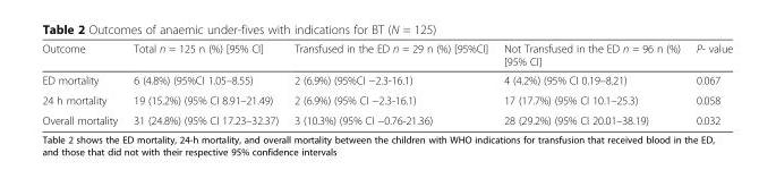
<table><thead><tr><td>Outcome</td><td>Total n = 125 n (%) [95% CI]</td><td>Transfused in the ED n = 29 n (%) [95%CI]</td><td>Not Transfused in the ED n = 96 n (%) [95% CI]</td><td>P- value</td></tr></thead><tbody><tr><td>ED mortality</td><td>6 (4.8%) (95%CI 1.05–8.55)</td><td>2 (6.9%) (95%CI −2.3-16.1)</td><td>4 (4.2%) (95% CI 0.19–8.21)</td><td>0.067</td></tr><tr><td>24 h mortality</td><td>19 (15.2%) (95% CI 8.91–21.49)</td><td>2 (6.9%) (95% CI −2.3-16.1)</td><td>17 (17.7%) (95% CI 10.1–25.3)</td><td>0.058</td></tr><tr><td>Overall mortality</td><td>31 (24.8%) (95% CI 17.23–32.37)</td><td>3 (10.3%) (95% CI −0.76-21.36)</td><td>28 (29.2%) (95% CI 20.01–38.19)</td><td>0.032</td></tr></tbody></table>